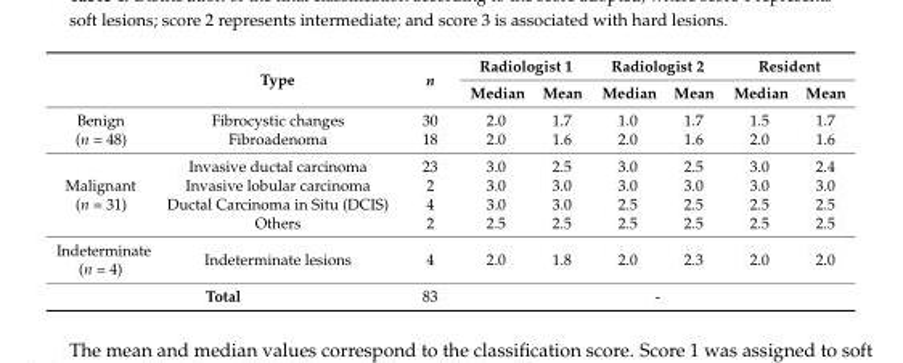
<table><thead><tr><td rowspan="2"></td><td rowspan="2">Type</td><td rowspan="2">n</td><td colspan="2">Radiologist 1</td><td colspan="2">Radiologist 2</td><td colspan="2">Resident</td></tr><tr><td>Median</td><td>Mean</td><td>Median</td><td>Mean</td><td>Median</td><td>Mean</td></tr></thead><tbody><tr><td rowspan="2">Benign (n = 48)</td><td>Fibrocystic changes</td><td>30</td><td>2.0</td><td>1.7</td><td>1.0</td><td>1.7</td><td>1.5</td><td>1.7</td></tr><tr><td>Fibroadenoma</td><td>18</td><td>2.0</td><td>1.6</td><td>2.0</td><td>1.6</td><td>2.0</td><td>1.6</td></tr><tr><td rowspan="4">Malignant (n = 31)</td><td>Invasive ductal carcinoma</td><td>23</td><td>3.0</td><td>2.5</td><td>3.0</td><td>2.5</td><td>3.0</td><td>2.4</td></tr><tr><td>Invasive lobular carcinoma</td><td>2</td><td>3.0</td><td>3.0</td><td>3.0</td><td>3.0</td><td>3.0</td><td>3.0</td></tr><tr><td>Ductal Carcinoma in Situ (DCIS)</td><td>4</td><td>3.0</td><td>3.0</td><td>2.5</td><td>2.5</td><td>2.5</td><td>2.5</td></tr><tr><td>Others</td><td>2</td><td>2.5</td><td>2.5</td><td>2.5</td><td>2.5</td><td>2.5</td><td>2.5</td></tr><tr><td>Indeterminate (n = 4)</td><td>Indeterminate lesions</td><td>4</td><td>2.0</td><td>1.8</td><td>2.0</td><td>2.3</td><td>2.0</td><td>2.0</td></tr><tr><td colspan="2">Total</td><td>83</td><td colspan="6">-</td></tr></tbody></table>